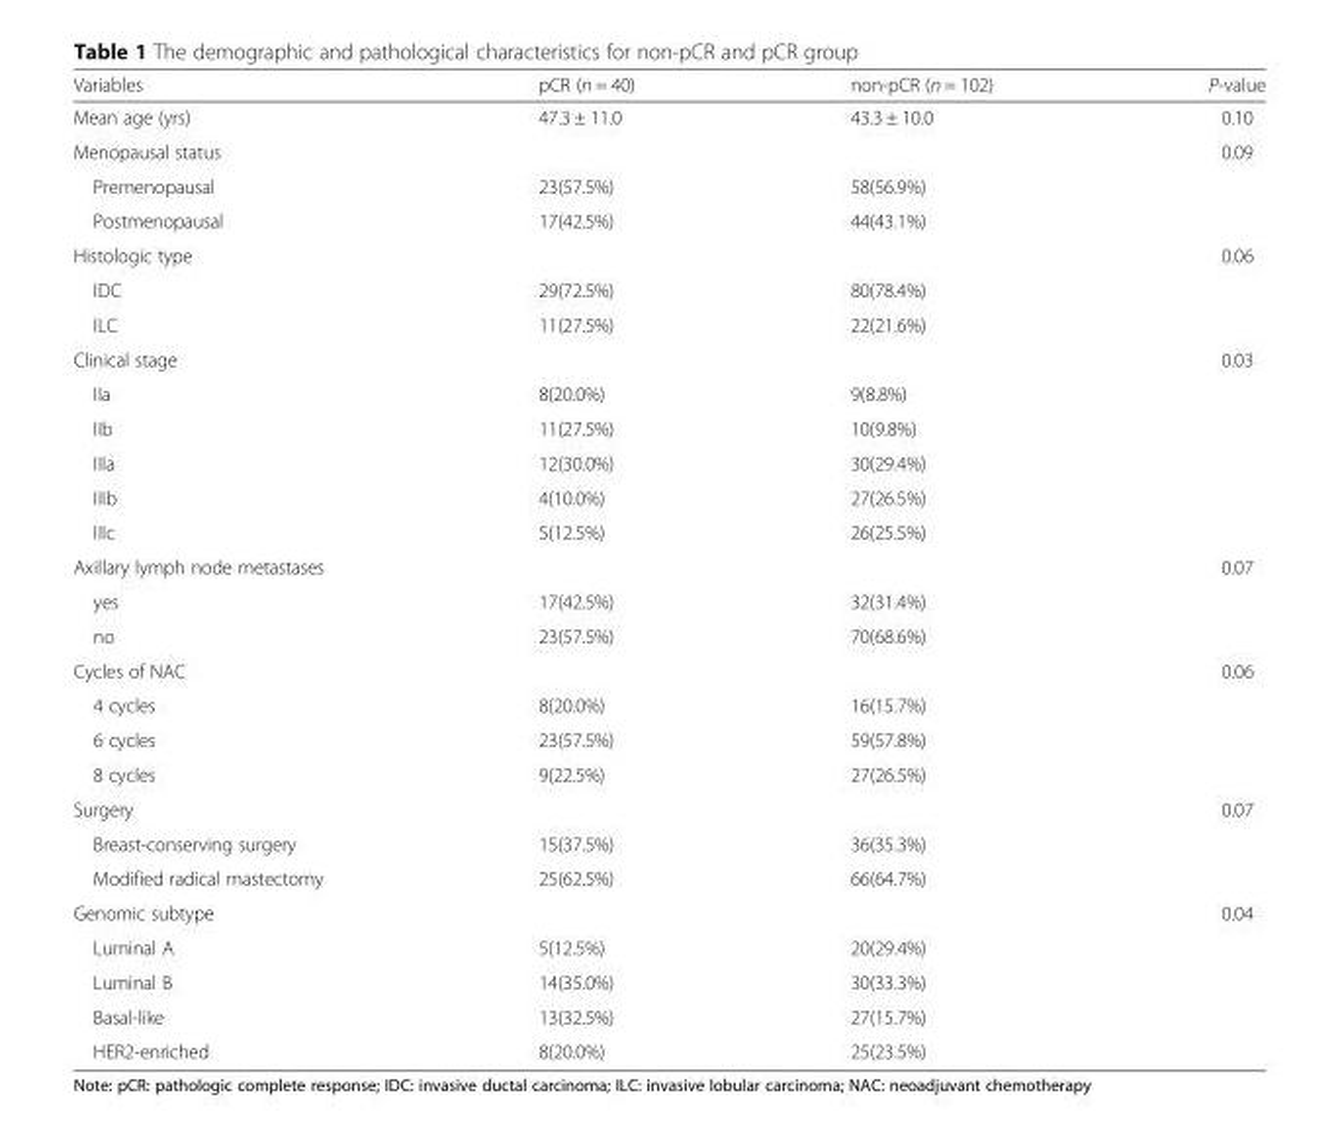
<table><thead><tr><td>Variables</td><td>pCR (n = 40)</td><td>non-pCR (n = 102)</td><td>P-value</td></tr></thead><tbody><tr><td>Mean age (yrs)</td><td>47.3 ± 11.0</td><td>43.3 ± 10.0</td><td>0.10</td></tr><tr><td colspan="3">Menopausal status</td><td>0.09</td></tr><tr><td>Premenopausal</td><td>23(57.5%)</td><td>58(56.9%)</td><td></td></tr><tr><td>Postmenopausal</td><td>17(42.5%)</td><td>44(43.1%)</td><td></td></tr><tr><td colspan="3">Histologic type</td><td>0.06</td></tr><tr><td>IDC</td><td>29(72.5%)</td><td>80(78.4%)</td><td></td></tr><tr><td>ILC</td><td>11(27.5%)</td><td>22(21.6%)</td><td></td></tr><tr><td colspan="3">Clinical stage</td><td>0.03</td></tr><tr><td>IIa</td><td>8(20.0%)</td><td>9(8.8%)</td><td></td></tr><tr><td>IIb</td><td>11(27.5%)</td><td>10(9.8%)</td><td></td></tr><tr><td>IIIa</td><td>12(30.0%)</td><td>30(29.4%)</td><td></td></tr><tr><td>IIIb</td><td>4(10.0%)</td><td>27(26.5%)</td><td></td></tr><tr><td>IIIc</td><td>5(12.5%)</td><td>26(25.5%)</td><td></td></tr><tr><td colspan="3">Axillary lymph node metastases</td><td>0.07</td></tr><tr><td>yes</td><td>17(42.5%)</td><td>32(31.4%)</td><td></td></tr><tr><td>no</td><td>23(57.5%)</td><td>70(68.6%)</td><td></td></tr><tr><td colspan="3">Cycles of NAC</td><td>0.06</td></tr><tr><td>4 cycles</td><td>8(20.0%)</td><td>16(15.7%)</td><td></td></tr><tr><td>6 cycles</td><td>23(57.5%)</td><td>59(57.8%)</td><td></td></tr><tr><td>8 cycles</td><td>9(22.5%)</td><td>27(26.5%)</td><td></td></tr><tr><td colspan="3">Surgery</td><td>0.07</td></tr><tr><td>Breast-conserving surgery</td><td>15(37.5%)</td><td>36(35.3%)</td><td></td></tr><tr><td>Modified radical mastectomy</td><td>25(62.5%)</td><td>66(64.7%)</td><td></td></tr><tr><td colspan="3">Genomic subtype</td><td>0.04</td></tr><tr><td>Luminal A</td><td>5(12.5%)</td><td>20(29.4%)</td><td></td></tr><tr><td>Luminal B</td><td>14(35.0%)</td><td>30(33.3%)</td><td></td></tr><tr><td>Basal-like</td><td>13(32.5%)</td><td>27(15.7%)</td><td></td></tr><tr><td>HER2-enriched</td><td>8(20.0%)</td><td>25(23.5%)</td><td></td></tr></tbody></table>